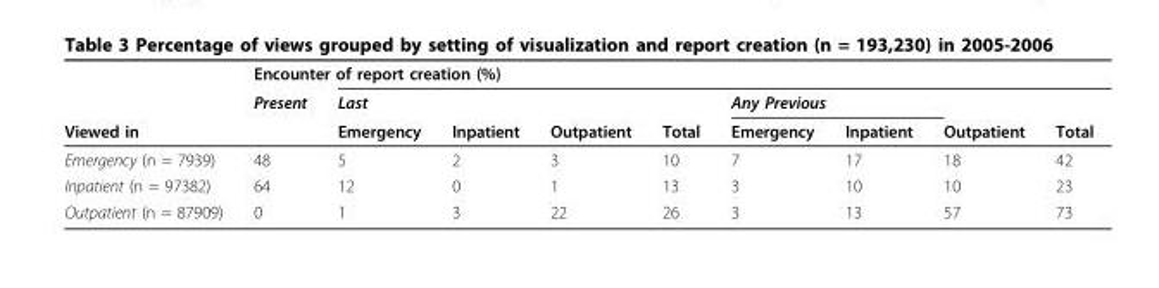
<table><thead><tr><td rowspan="3">Viewed in</td><td colspan="9">Encounter of report creation (%)</td></tr><tr><td rowspan="2">Present</td><td rowspan="2">Last Emergency</td><td rowspan="2">Inpatient</td><td rowspan="2">Outpatient</td><td rowspan="2">Total</td><td colspan="2">Any Previous</td><td rowspan="2">Outpatient</td><td rowspan="2">Total</td></tr><tr><td>Emergency</td><td>Inpatient</td></tr></thead><tbody><tr><td>Emergency (n = 7939)</td><td>48</td><td>5</td><td>2</td><td>3</td><td>10</td><td>7</td><td>17</td><td>18</td><td>42</td></tr><tr><td>Inpatient (n = 97382)</td><td>64</td><td>12</td><td>0</td><td>1</td><td>13</td><td>3</td><td>10</td><td>10</td><td>23</td></tr><tr><td>Outpatient (n = 87909)</td><td>0</td><td>1</td><td>3</td><td>22</td><td>26</td><td>3</td><td>13</td><td>57</td><td>73</td></tr></tbody></table>